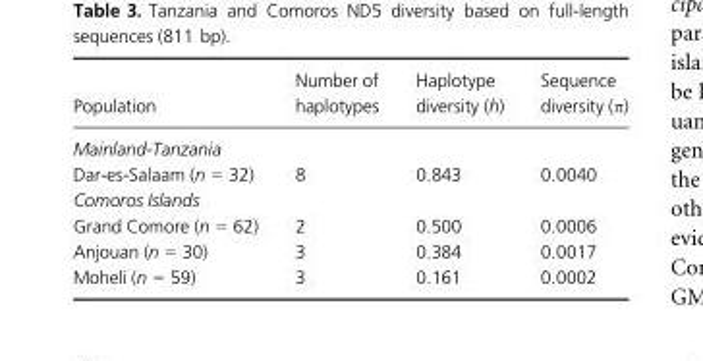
<table><thead><tr><td>Population</td><td>Number of haplotypes</td><td>Haplotype diversity (h)</td><td>Sequence diversity (π)</td></tr></thead><tbody><tr><td colspan="4">Mainland-Tanzania</td></tr><tr><td>Dar-es-Salaam (n = 32)</td><td>8</td><td>0.843</td><td>0.0040</td></tr><tr><td colspan="4">Comoros Islands</td></tr><tr><td>Grand Comore (n = 62)</td><td>2</td><td>0.500</td><td>0.0006</td></tr><tr><td>Anjouan (n = 30)</td><td>3</td><td>0.384</td><td>0.0017</td></tr><tr><td>Moheli (n = 59)</td><td>3</td><td>0.161</td><td>0.0002</td></tr></tbody></table>